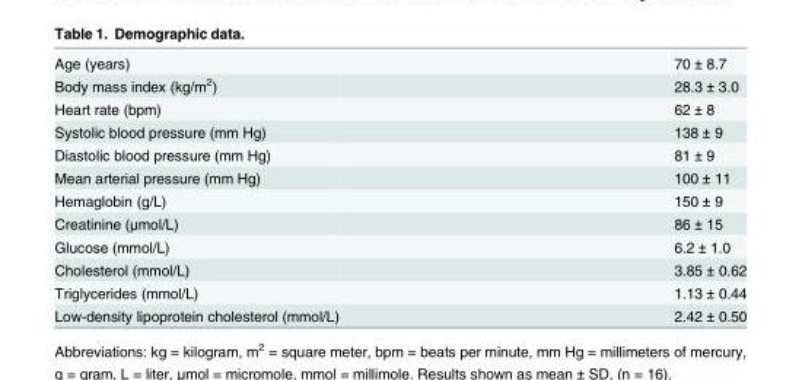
<table><tbody><tr><td>Age (years)</td><td>70 ± 8.7</td></tr><tr><td>Body mass index (kg/m<sup>2</sup>)</td><td>28.3 ± 3.0</td></tr><tr><td>Heart rate (bpm)</td><td>62 ± 8</td></tr><tr><td>Systolic blood pressure (mm Hg)</td><td>138 ± 9</td></tr><tr><td>Diastolic blood pressure (mm Hg)</td><td>81 ± 9</td></tr><tr><td>Mean arterial pressure (mm Hg)</td><td>100 ± 11</td></tr><tr><td>Hemaglobin (g/L)</td><td>150 ± 9</td></tr><tr><td>Creatinine (μmol/L)</td><td>86 ± 15</td></tr><tr><td>Glucose (mmol/L)</td><td>6.2 ± 1.0</td></tr><tr><td>Cholesterol (mmol/L)</td><td>3.85 ± 0.62</td></tr><tr><td>Triglycerides (mmol/L)</td><td>1.13 ± 0.44</td></tr><tr><td>Low-density lipoprotein cholesterol (mmol/L)</td><td>2.42 ± 0.50</td></tr></tbody></table>